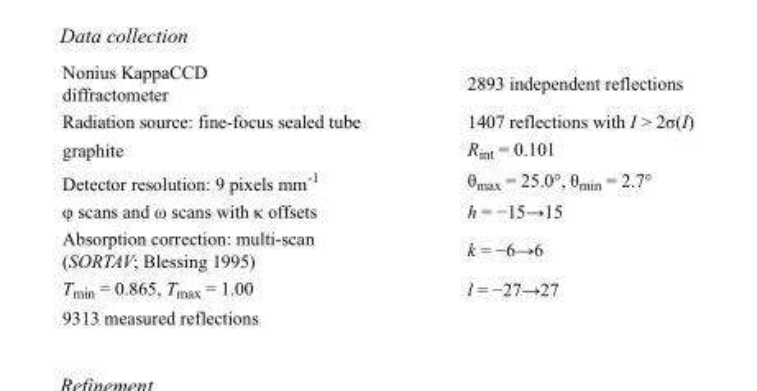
<table><tbody><tr><td>Nonius KappaCCD diffractometer</td><td>2893 independent reflections</td></tr><tr><td>Radiation source: fine-focus sealed tube</td><td>1407 reflections with I &gt; 2σ(I)</td></tr><tr><td>graphite</td><td>R<sub>int</sub> = 0.101</td></tr><tr><td>Detector resolution: 9 pixels mm<sup>-1</sup></td><td>θ<sub>max</sub> = 25.0°, θ<sub>min</sub> = 2.7°</td></tr><tr><td>φ scans and ω scans with κ offsets</td><td>h = −15→15</td></tr><tr><td>Absorption correction: multi-scan (SORTAV; Blessing 1995)</td><td>k = −6→6</td></tr><tr><td>T<sub>min</sub> = 0.865, T<sub>max</sub> = 1.00</td><td>l = −27→27</td></tr><tr><td>9313 measured reflections</td><td></td></tr></tbody></table>